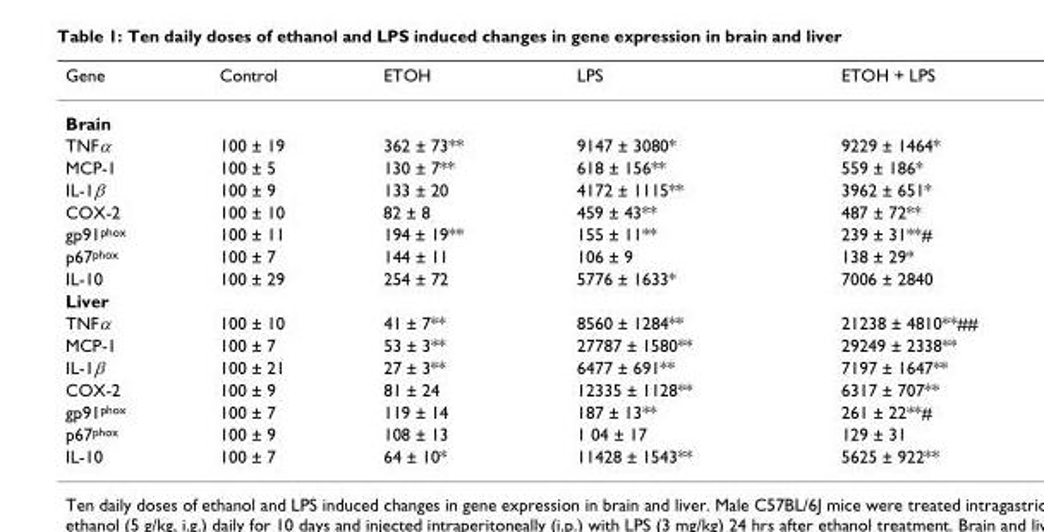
<table><thead><tr><td>Gene</td><td>Control</td><td>ETOH</td><td>LPS</td><td>ETOH + LPS</td></tr></thead><tbody><tr><td colspan="5">Brain</td></tr><tr><td>TNFα</td><td>100 ± 19</td><td>362 ± 73**</td><td>9147 ± 3080*</td><td>9229 ± 1464*</td></tr><tr><td>MCP-1</td><td>100 ± 5</td><td>130 ± 7**</td><td>618 ± 156**</td><td>559 ± 186*</td></tr><tr><td>IL-1β</td><td>100 ± 9</td><td>133 ± 20</td><td>4172 ± 1115**</td><td>3962 ± 651*</td></tr><tr><td>COX-2</td><td>100 ± 10</td><td>82 ± 8</td><td>459 ± 43**</td><td>487 ± 72**</td></tr><tr><td>gp91<sup>phox</sup></td><td>100 ± 11</td><td>194 ± 19**</td><td>155 ± 11**</td><td>239 ± 31**#</td></tr><tr><td>p67<sup>phox</sup></td><td>100 ± 7</td><td>144 ± 11</td><td>106 ± 9</td><td>138 ± 29*</td></tr><tr><td>IL-10</td><td>100 ± 29</td><td>254 ± 72</td><td>5776 ± 1633*</td><td>7006 ± 2840</td></tr><tr><td colspan="5">Liver</td></tr><tr><td>TNFα</td><td>100 ± 10</td><td>41 ± 7**</td><td>8560 ± 1284**</td><td>21238 ± 4810**##</td></tr><tr><td>MCP-1</td><td>100 ± 7</td><td>53 ± 3**</td><td>27787 ± 1580**</td><td>29249 ± 2338**</td></tr><tr><td>IL-1β</td><td>100 ± 21</td><td>27 ± 3**</td><td>6477 ± 691**</td><td>7197 ± 1647**</td></tr><tr><td>COX-2</td><td>100 ± 9</td><td>81 ± 24</td><td>12335 ± 1128**</td><td>6317 ± 707**</td></tr><tr><td>gp91<sup>phox</sup></td><td>100 ± 7</td><td>119 ± 14</td><td>187 ± 13**</td><td>261 ± 22**#</td></tr><tr><td>p67<sup>phox</sup></td><td>100 ± 9</td><td>108 ± 13</td><td>1 04 ± 17</td><td>129 ± 31</td></tr><tr><td>IL-10</td><td>100 ± 7</td><td>64 ± 10*</td><td>11428 ± 1543**</td><td>5625 ± 922**</td></tr></tbody></table>